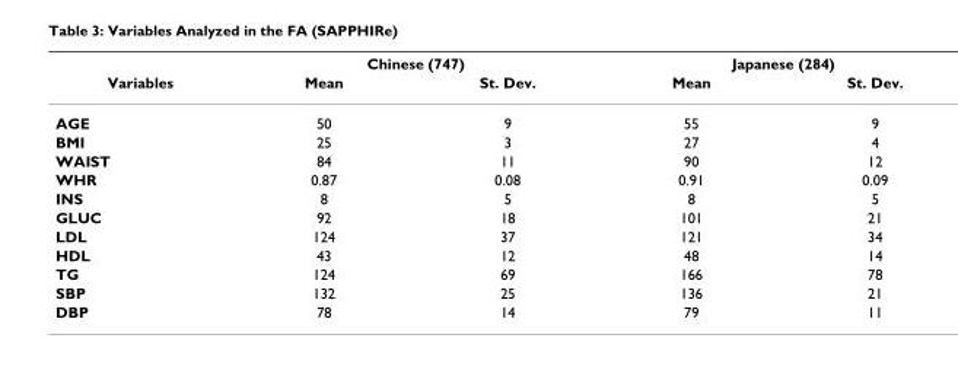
<table><thead><tr><td rowspan="2">Variables</td><td colspan="2">Chinese (747)</td><td colspan="2">Japanese (284)</td></tr><tr><td>Mean</td><td>St. Dev.</td><td>Mean</td><td>St. Dev.</td></tr></thead><tbody><tr><td>AGE</td><td>50</td><td>9</td><td>55</td><td>9</td></tr><tr><td>BMI</td><td>25</td><td>3</td><td>27</td><td>4</td></tr><tr><td>WAIST</td><td>84</td><td>11</td><td>90</td><td>12</td></tr><tr><td>WHR</td><td>0.87</td><td>0.08</td><td>0.91</td><td>0.09</td></tr><tr><td>INS</td><td>8</td><td>5</td><td>8</td><td>5</td></tr><tr><td>GLUC</td><td>92</td><td>18</td><td>101</td><td>21</td></tr><tr><td>LDL</td><td>124</td><td>37</td><td>121</td><td>34</td></tr><tr><td>HDL</td><td>43</td><td>12</td><td>48</td><td>14</td></tr><tr><td>TG</td><td>124</td><td>69</td><td>166</td><td>78</td></tr><tr><td>SBP</td><td>132</td><td>25</td><td>136</td><td>21</td></tr><tr><td>DBP</td><td>78</td><td>14</td><td>79</td><td>11</td></tr></tbody></table>